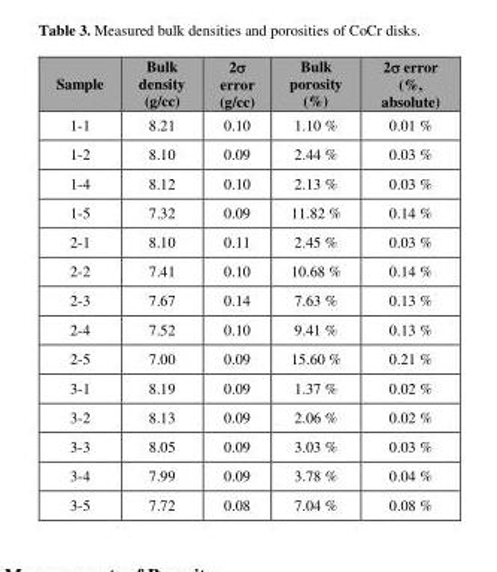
<table><thead><tr><td>Sample</td><td>Bulk density (g/cc)</td><td>2σ error (g/cc)</td><td>Bulk porosity (%)</td><td>2σ error (%, absolute)</td></tr></thead><tbody><tr><td>1-1</td><td>8.21</td><td>0.10</td><td>1.10 %</td><td>0.01 %</td></tr><tr><td>1-2</td><td>8.10</td><td>0.09</td><td>2.44 %</td><td>0.03 %</td></tr><tr><td>1-4</td><td>8.12</td><td>0.10</td><td>2.13 %</td><td>0.03 %</td></tr><tr><td>1-5</td><td>7.32</td><td>0.09</td><td>11.82 %</td><td>0.14 %</td></tr><tr><td>2-1</td><td>8.10</td><td>0.11</td><td>2.45 %</td><td>0.03 %</td></tr><tr><td>2-2</td><td>7.41</td><td>0.10</td><td>10.68 %</td><td>0.14 %</td></tr><tr><td>2-3</td><td>7.67</td><td>0.14</td><td>7.63 %</td><td>0.13 %</td></tr><tr><td>2-4</td><td>7.52</td><td>0.10</td><td>9.41 %</td><td>0.13 %</td></tr><tr><td>2-5</td><td>7.00</td><td>0.09</td><td>15.60 %</td><td>0.21 %</td></tr><tr><td>3-1</td><td>8.19</td><td>0.09</td><td>1.37 %</td><td>0.02 %</td></tr><tr><td>3-2</td><td>8.13</td><td>0.09</td><td>2.06 %</td><td>0.02 %</td></tr><tr><td>3-3</td><td>8.05</td><td>0.09</td><td>3.03 %</td><td>0.03 %</td></tr><tr><td>3-4</td><td>7.99</td><td>0.09</td><td>3.78 %</td><td>0.04 %</td></tr><tr><td>3-5</td><td>7.72</td><td>0.08</td><td>7.04 %</td><td>0.08 %</td></tr></tbody></table>